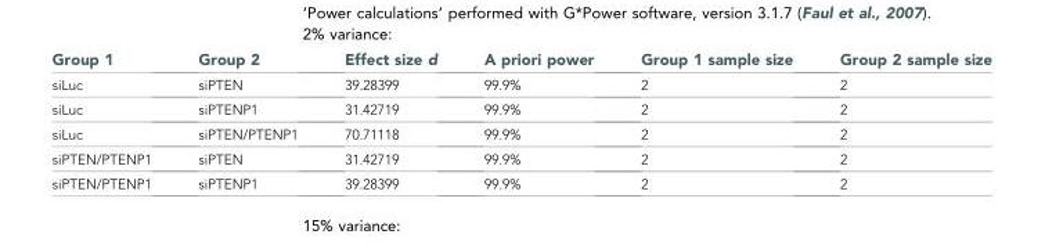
<table><thead><tr><td>Group 1</td><td>Group 2</td><td>Effect size d</td><td>A priori power</td><td>Group 1 sample size</td><td>Group 2 sample size</td></tr></thead><tbody><tr><td>siLuc</td><td>siPTEN</td><td>39.28399</td><td>99.9%</td><td>2</td><td>2</td></tr><tr><td>siLuc</td><td>siPTENP1</td><td>31.42719</td><td>99.9%</td><td>2</td><td>2</td></tr><tr><td>siLuc</td><td>siPTEN/PTENP1</td><td>70.71118</td><td>99.9%</td><td>2</td><td>2</td></tr><tr><td>siPTEN/PTENP1</td><td>siPTEN</td><td>31.42719</td><td>99.9%</td><td>2</td><td>2</td></tr><tr><td>siPTEN/PTENP1</td><td>siPTENP1</td><td>39.28399</td><td>99.9%</td><td>2</td><td>2</td></tr></tbody></table>